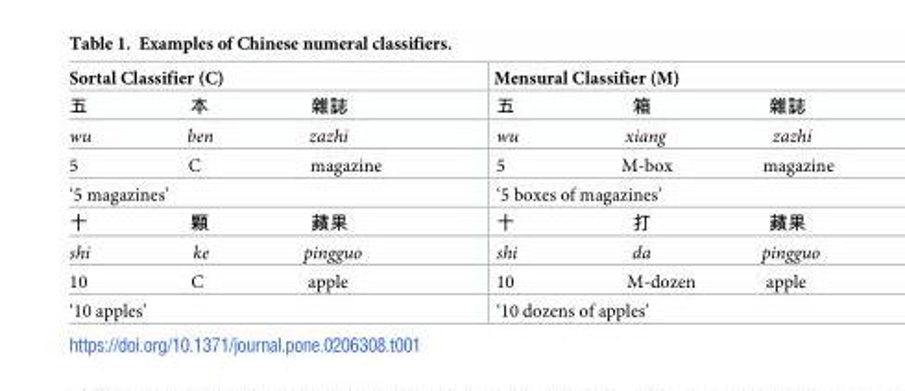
<table><thead><tr><td>Sortal Classifier (C)</td><td>Mensural Classifier (M)</td></tr></thead><tbody><tr><td>五 本 雜誌</td><td>五 箱 雜誌</td></tr><tr><td>wu ben zazhi</td><td>wu xiang zazhi</td></tr><tr><td>5 C magazine</td><td>5 M-box magazine</td></tr><tr><td>‘5 magazines’</td><td>‘5 boxes of magazines’</td></tr><tr><td>十 顆 蘋果</td><td>十 打 蘋果</td></tr><tr><td>shi ke pingguo</td><td>shi da pingguo</td></tr><tr><td>10 C apple</td><td>10 M-dozen apple</td></tr><tr><td>‘10 apples’</td><td>‘10 dozens of apples’</td></tr></tbody></table>